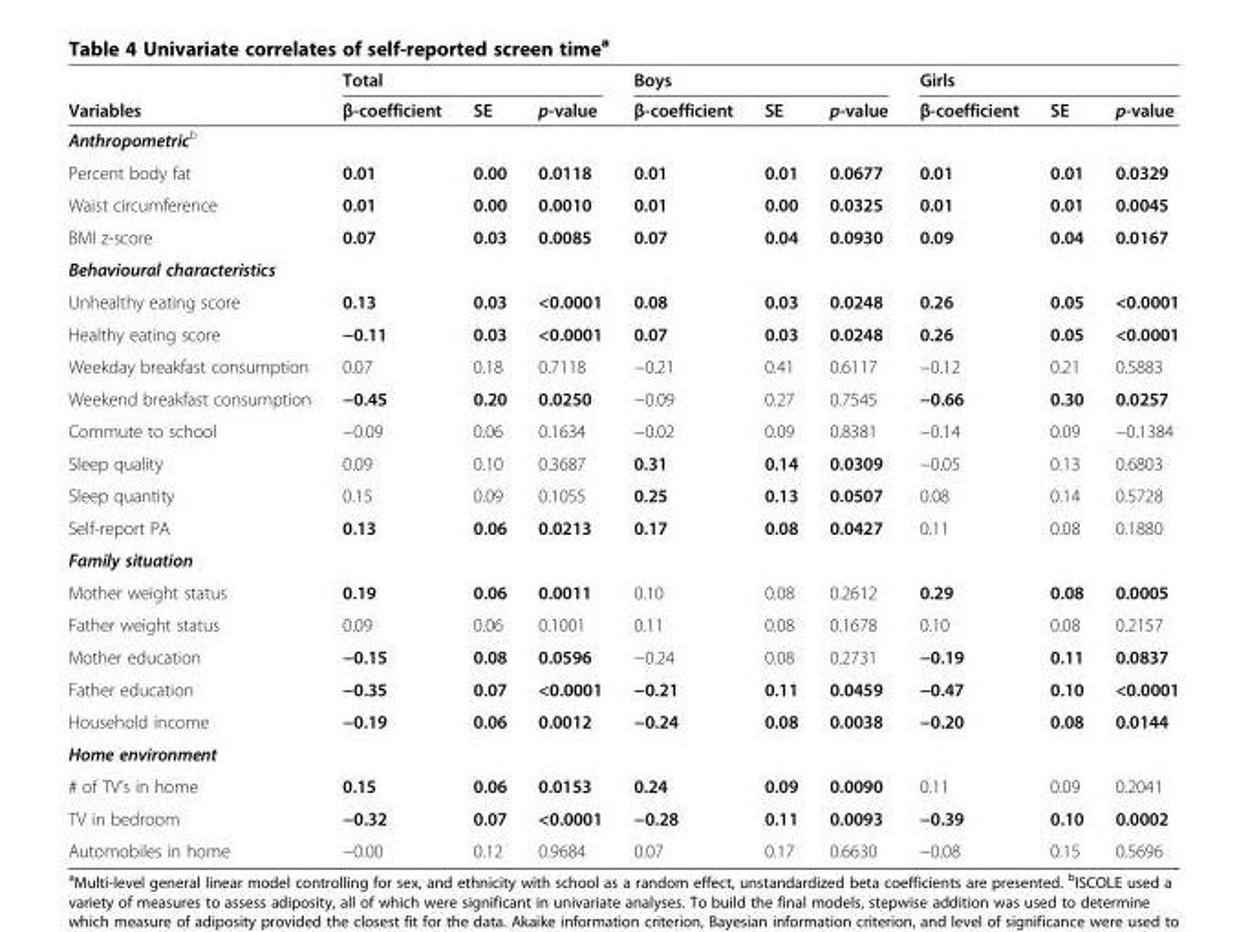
<table><thead><tr><td rowspan="2">Variables</td><td colspan="3">Total</td><td colspan="3">Boys</td><td colspan="3">Girls</td></tr><tr><td>β-coefficient</td><td>SE</td><td>p-value</td><td>β-coefficient</td><td>SE</td><td>p-value</td><td>β-coefficient</td><td>SE</td><td>p-value</td></tr></thead><tbody><tr><td colspan="10">Anthropometric<sup>b</sup></td></tr><tr><td>Percent body fat</td><td>0.01</td><td>0.00</td><td>0.0118</td><td>0.01</td><td>0.01</td><td>0.0677</td><td>0.01</td><td>0.01</td><td>0.0329</td></tr><tr><td>Waist circumference</td><td>0.01</td><td>0.00</td><td>0.0010</td><td>0.01</td><td>0.00</td><td>0.0325</td><td>0.01</td><td>0.01</td><td>0.0045</td></tr><tr><td>BMI z-score</td><td>0.07</td><td>0.03</td><td>0.0085</td><td>0.07</td><td>0.04</td><td>0.0930</td><td>0.09</td><td>0.04</td><td>0.0167</td></tr><tr><td colspan="10">Behavioural characteristics</td></tr><tr><td>Unhealthy eating score</td><td>0.13</td><td>0.03</td><td>&lt;0.0001</td><td>0.08</td><td>0.03</td><td>0.0248</td><td>0.26</td><td>0.05</td><td>&lt;0.0001</td></tr><tr><td>Healthy eating score</td><td>−0.11</td><td>0.03</td><td>&lt;0.0001</td><td>0.07</td><td>0.03</td><td>0.0248</td><td>0.26</td><td>0.05</td><td>&lt;0.0001</td></tr><tr><td>Weekday breakfast consumption</td><td>0.07</td><td>0.18</td><td>0.7118</td><td>−0.21</td><td>0.41</td><td>0.6117</td><td>−0.12</td><td>0.21</td><td>0.5883</td></tr><tr><td>Weekend breakfast consumption</td><td>−0.45</td><td>0.20</td><td>0.0250</td><td>−0.09</td><td>0.27</td><td>0.7545</td><td>−0.66</td><td>0.30</td><td>0.0257</td></tr><tr><td>Commute to school</td><td>−0.09</td><td>0.06</td><td>0.1634</td><td>−0.02</td><td>0.09</td><td>0.8381</td><td>−0.14</td><td>0.09</td><td>−0.1384</td></tr><tr><td>Sleep quality</td><td>0.09</td><td>0.10</td><td>0.3687</td><td>0.31</td><td>0.14</td><td>0.0309</td><td>−0.05</td><td>0.13</td><td>0.6803</td></tr><tr><td>Sleep quantity</td><td>0.15</td><td>0.09</td><td>0.1055</td><td>0.25</td><td>0.13</td><td>0.0507</td><td>0.08</td><td>0.14</td><td>0.5728</td></tr><tr><td>Self-report PA</td><td>0.13</td><td>0.06</td><td>0.0213</td><td>0.17</td><td>0.08</td><td>0.0427</td><td>0.11</td><td>0.08</td><td>0.1880</td></tr><tr><td colspan="10">Family situation</td></tr><tr><td>Mother weight status</td><td>0.19</td><td>0.06</td><td>0.0011</td><td>0.10</td><td>0.08</td><td>0.2612</td><td>0.29</td><td>0.08</td><td>0.0005</td></tr><tr><td>Father weight status</td><td>0.09</td><td>0.06</td><td>0.1001</td><td>0.11</td><td>0.08</td><td>0.1678</td><td>0.10</td><td>0.08</td><td>0.2157</td></tr><tr><td>Mother education</td><td>−0.15</td><td>0.08</td><td>0.0596</td><td>−0.24</td><td>0.08</td><td>0.2731</td><td>−0.19</td><td>0.11</td><td>0.0837</td></tr><tr><td>Father education</td><td>−0.35</td><td>0.07</td><td>&lt;0.0001</td><td>−0.21</td><td>0.11</td><td>0.0459</td><td>−0.47</td><td>0.10</td><td>&lt;0.0001</td></tr><tr><td>Household income</td><td>−0.19</td><td>0.06</td><td>0.0012</td><td>−0.24</td><td>0.08</td><td>0.0038</td><td>−0.20</td><td>0.08</td><td>0.0144</td></tr><tr><td colspan="10">Home environment</td></tr><tr><td># of TV’s in home</td><td>0.15</td><td>0.06</td><td>0.0153</td><td>0.24</td><td>0.09</td><td>0.0090</td><td>0.11</td><td>0.09</td><td>0.2041</td></tr><tr><td>TV in bedroom</td><td>−0.32</td><td>0.07</td><td>&lt;0.0001</td><td>−0.28</td><td>0.11</td><td>0.0093</td><td>−0.39</td><td>0.10</td><td>0.0002</td></tr><tr><td>Automobiles in home</td><td>−0.00</td><td>0.12</td><td>0.9684</td><td>0.07</td><td>0.17</td><td>0.6630</td><td>−0.08</td><td>0.15</td><td>0.5696</td></tr></tbody></table>